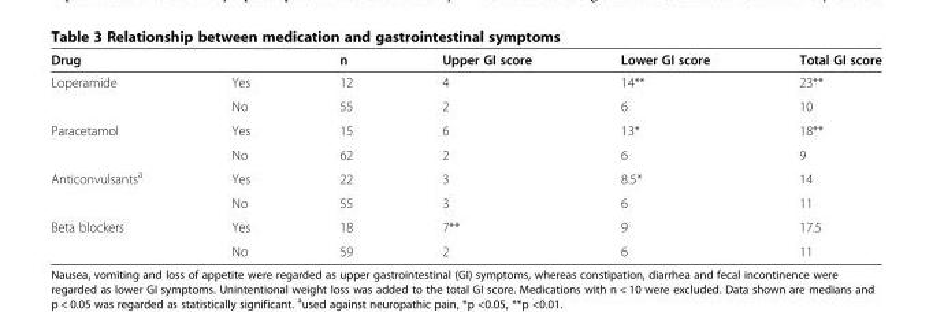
<table><thead><tr><td>Drug</td><td></td><td>n</td><td>Upper GI score</td><td>Lower GI score</td><td>Total GI score</td></tr></thead><tbody><tr><td rowspan="2">Loperamide</td><td>Yes</td><td>12</td><td>4</td><td>14**</td><td>23**</td></tr><tr><td>No</td><td>55</td><td>2</td><td>6</td><td>10</td></tr><tr><td rowspan="2">Paracetamol</td><td>Yes</td><td>15</td><td>6</td><td>13*</td><td>18**</td></tr><tr><td>No</td><td>62</td><td>2</td><td>6</td><td>9</td></tr><tr><td rowspan="2">Anticonvulsants<sup>a</sup></td><td>Yes</td><td>22</td><td>3</td><td>8.5*</td><td>14</td></tr><tr><td>No</td><td>55</td><td>3</td><td>6</td><td>11</td></tr><tr><td rowspan="2">Beta blockers</td><td>Yes</td><td>18</td><td>7**</td><td>9</td><td>17.5</td></tr><tr><td>No</td><td>59</td><td>2</td><td>6</td><td>11</td></tr></tbody></table>